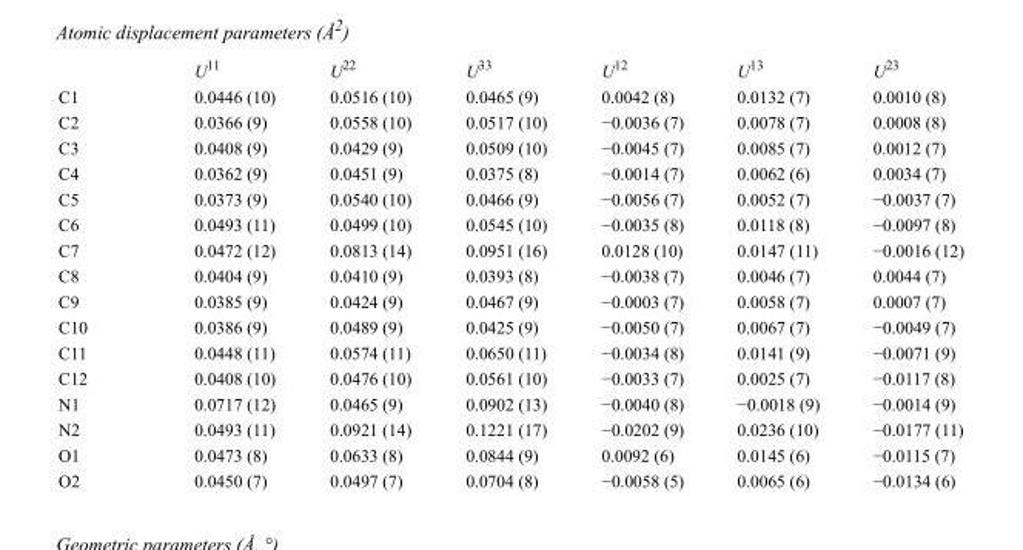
<table><thead><tr><td></td><td>U<sup>11</sup></td><td>U<sup>22</sup></td><td>U<sup>33</sup></td><td>U<sup>12</sup></td><td>U<sup>13</sup></td><td>U<sup>23</sup></td></tr></thead><tbody><tr><td>C1</td><td>0.0446 (10)</td><td>0.0516 (10)</td><td>0.0465 (9)</td><td>0.0042 (8)</td><td>0.0132 (7)</td><td>0.0010 (8)</td></tr><tr><td>C2</td><td>0.0366 (9)</td><td>0.0558 (10)</td><td>0.0517 (10)</td><td>−0.0036 (7)</td><td>0.0078 (7)</td><td>0.0008 (8)</td></tr><tr><td>C3</td><td>0.0408 (9)</td><td>0.0429 (9)</td><td>0.0509 (10)</td><td>−0.0045 (7)</td><td>0.0085 (7)</td><td>0.0012 (7)</td></tr><tr><td>C4</td><td>0.0362 (9)</td><td>0.0451 (9)</td><td>0.0375 (8)</td><td>−0.0014 (7)</td><td>0.0062 (6)</td><td>0.0034 (7)</td></tr><tr><td>C5</td><td>0.0373 (9)</td><td>0.0540 (10)</td><td>0.0466 (9)</td><td>−0.0056 (7)</td><td>0.0052 (7)</td><td>−0.0037 (7)</td></tr><tr><td>C6</td><td>0.0493 (11)</td><td>0.0499 (10)</td><td>0.0545 (10)</td><td>−0.0035 (8)</td><td>0.0118 (8)</td><td>−0.0097 (8)</td></tr><tr><td>C7</td><td>0.0472 (12)</td><td>0.0813 (14)</td><td>0.0951 (16)</td><td>0.0128 (10)</td><td>0.0147 (11)</td><td>−0.0016 (12)</td></tr><tr><td>C8</td><td>0.0404 (9)</td><td>0.0410 (9)</td><td>0.0393 (8)</td><td>−0.0038 (7)</td><td>0.0046 (7)</td><td>0.0044 (7)</td></tr><tr><td>C9</td><td>0.0385 (9)</td><td>0.0424 (9)</td><td>0.0467 (9)</td><td>−0.0003 (7)</td><td>0.0058 (7)</td><td>0.0007 (7)</td></tr><tr><td>C10</td><td>0.0386 (9)</td><td>0.0489 (9)</td><td>0.0425 (9)</td><td>−0.0050 (7)</td><td>0.0067 (7)</td><td>−0.0049 (7)</td></tr><tr><td>C11</td><td>0.0448 (11)</td><td>0.0574 (11)</td><td>0.0650 (11)</td><td>−0.0034 (8)</td><td>0.0141 (9)</td><td>−0.0071 (9)</td></tr><tr><td>C12</td><td>0.0408 (10)</td><td>0.0476 (10)</td><td>0.0561 (10)</td><td>−0.0033 (7)</td><td>0.0025 (7)</td><td>−0.0117 (8)</td></tr><tr><td>N1</td><td>0.0717 (12)</td><td>0.0465 (9)</td><td>0.0902 (13)</td><td>−0.0040 (8)</td><td>−0.0018 (9)</td><td>−0.0014 (9)</td></tr><tr><td>N2</td><td>0.0493 (11)</td><td>0.0921 (14)</td><td>0.1221 (17)</td><td>−0.0202 (9)</td><td>0.0236 (10)</td><td>−0.0177 (11)</td></tr><tr><td>O1</td><td>0.0473 (8)</td><td>0.0633 (8)</td><td>0.0844 (9)</td><td>0.0092 (6)</td><td>0.0145 (6)</td><td>−0.0115 (7)</td></tr><tr><td>O2</td><td>0.0450 (7)</td><td>0.0497 (7)</td><td>0.0704 (8)</td><td>−0.0058 (5)</td><td>0.0065 (6)</td><td>−0.0134 (6)</td></tr></tbody></table>